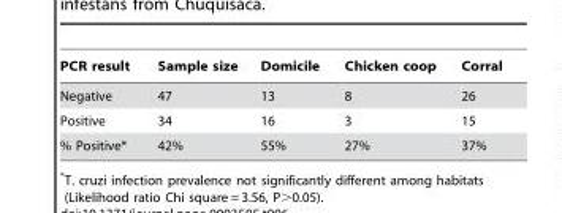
<table><thead><tr><td>PCR result</td><td>Sample size</td><td>Domicile</td><td>Chicken coop</td><td>Corral</td></tr></thead><tbody><tr><td>Negative</td><td>47</td><td>13</td><td>8</td><td>26</td></tr><tr><td>Positive</td><td>34</td><td>16</td><td>3</td><td>15</td></tr><tr><td>% Positive*</td><td>42%</td><td>55%</td><td>27%</td><td>37%</td></tr></tbody></table>